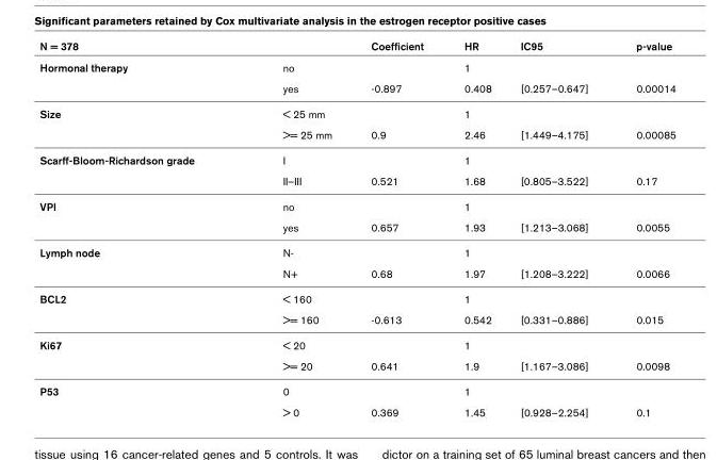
<table><thead><tr><td>N = 378</td><td></td><td>Coefficient</td><td>HR</td><td>IC95</td><td>p-value</td></tr></thead><tbody><tr><td rowspan="2">Hormonal therapy</td><td>no</td><td></td><td>1</td><td></td><td></td></tr><tr><td>yes</td><td>-0.897</td><td>0.408</td><td>[0.257–0.647]</td><td>0.00014</td></tr><tr><td rowspan="2">Size</td><td>&lt; 25 mm</td><td></td><td>1</td><td></td><td></td></tr><tr><td>&gt;= 25 mm</td><td>0.9</td><td>2.46</td><td>[1.449–4.175]</td><td>0.00085</td></tr><tr><td rowspan="2">Scarff-Bloom-Richardson grade</td><td>I</td><td></td><td>1</td><td></td><td></td></tr><tr><td>II–III</td><td>0.521</td><td>1.68</td><td>[0.805–3.522]</td><td>0.17</td></tr><tr><td rowspan="2">VPI</td><td>no</td><td></td><td>1</td><td></td><td></td></tr><tr><td>yes</td><td>0.657</td><td>1.93</td><td>[1.213–3.068]</td><td>0.0055</td></tr><tr><td rowspan="2">Lymph node</td><td>N-</td><td></td><td>1</td><td></td><td></td></tr><tr><td>N+</td><td>0.68</td><td>1.97</td><td>[1.208–3.222]</td><td>0.0066</td></tr><tr><td rowspan="2">BCL2</td><td>&lt; 160</td><td></td><td>1</td><td></td><td></td></tr><tr><td>&gt;= 160</td><td>-0.613</td><td>0.542</td><td>[0.331–0.886]</td><td>0.015</td></tr><tr><td rowspan="2">Ki67</td><td>&lt; 20</td><td></td><td>1</td><td></td><td></td></tr><tr><td>&gt;= 20</td><td>0.641</td><td>1.9</td><td>[1.167–3.086]</td><td>0.0098</td></tr><tr><td rowspan="2">P53</td><td>0</td><td></td><td>1</td><td></td><td></td></tr><tr><td>&gt; 0</td><td>0.369</td><td>1.45</td><td>[0.928–2.254]</td><td>0.1</td></tr></tbody></table>